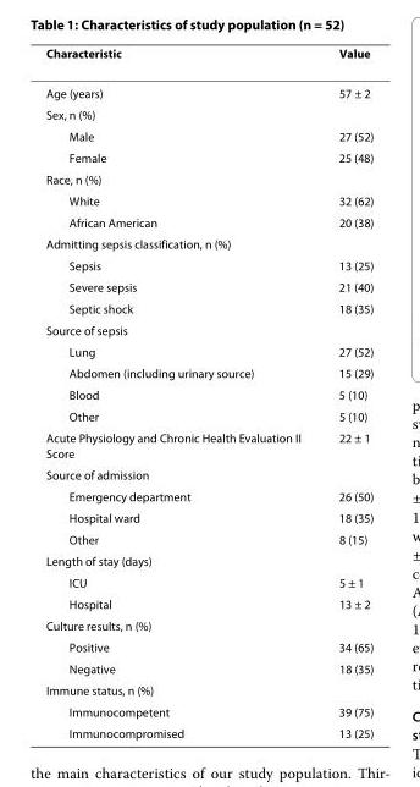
<table><thead><tr><td>Characteristic</td><td>Value</td></tr></thead><tbody><tr><td>Age (years)</td><td>57 ± 2</td></tr><tr><td colspan="2">Sex, n (%)</td></tr><tr><td>Male</td><td>27 (52)</td></tr><tr><td>Female</td><td>25 (48)</td></tr><tr><td colspan="2">Race, n (%)</td></tr><tr><td>White</td><td>32 (62)</td></tr><tr><td>African American</td><td>20 (38)</td></tr><tr><td colspan="2">Admitting sepsis classification, n (%)</td></tr><tr><td>Sepsis</td><td>13 (25)</td></tr><tr><td>Severe sepsis</td><td>21 (40)</td></tr><tr><td>Septic shock</td><td>18 (35)</td></tr><tr><td colspan="2">Source of sepsis</td></tr><tr><td>Lung</td><td>27 (52)</td></tr><tr><td>Abdomen (including urinary source)</td><td>15 (29)</td></tr><tr><td>Blood</td><td>5 (10)</td></tr><tr><td>Other</td><td>5 (10)</td></tr><tr><td>Acute Physiology and Chronic Health Evaluation II Score</td><td>22 ± 1</td></tr><tr><td colspan="2">Source of admission</td></tr><tr><td>Emergency department</td><td>26 (50)</td></tr><tr><td>Hospital ward</td><td>18 (35)</td></tr><tr><td>Other</td><td>8 (15)</td></tr><tr><td colspan="2">Length of stay (days)</td></tr><tr><td>ICU</td><td>5 ± 1</td></tr><tr><td>Hospital</td><td>13 ± 2</td></tr><tr><td colspan="2">Culture results, n (%)</td></tr><tr><td>Positive</td><td>34 (65)</td></tr><tr><td>Negative</td><td>18 (35)</td></tr><tr><td colspan="2">Immune status, n (%)</td></tr><tr><td>Immunocompetent</td><td>39 (75)</td></tr><tr><td>Immunocompromised</td><td>13 (25)</td></tr></tbody></table>